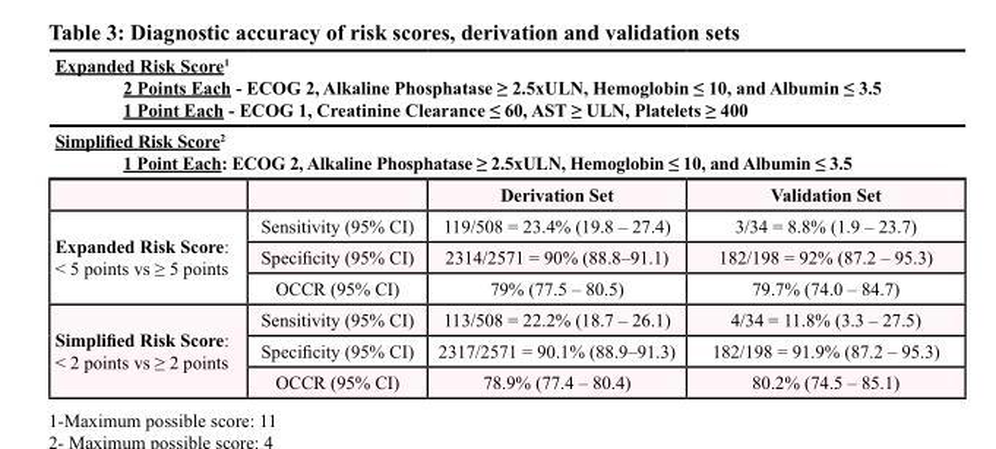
<table><thead><tr><td rowspan="2" colspan="4">Expanded Risk Score<sup>1</sup> 2 Points Each - ECOG 2, Alkaline Phosphatase ≥ 2.5xULN, Hemoglobin ≤ 10, and Albumin ≤ 3.5 1 Point Each - ECOG 1, Creatinine Clearance ≤ 60, AST ≥ ULN, Platelets ≥ 400 Simplified Risk Score<sup>2</sup> 1 Point Each: ECOG 2, Alkaline Phosphatase ≥ 2.5xULN, Hemoglobin ≤ 10, and Albumin ≤ 3.5</td></tr><tr></tr><tr><td></td><td></td><td>Derivation Set</td><td>Validation Set</td></tr></thead><tbody><tr><td rowspan="3">Expanded Risk Score: &lt; 5 points vs ≥ 5 points</td><td>Sensitivity (95% CI)</td><td>119/508 = 23.4% (19.8 – 27.4)</td><td>3/34 = 8.8% (1.9 – 23.7)</td></tr><tr><td>Specificity (95% CI)</td><td>2314/2571 = 90% (88.8–91.1)</td><td>182/198 = 92% (87.2 – 95.3)</td></tr><tr><td>OCCR (95% CI)</td><td>79% (77.5 – 80.5)</td><td>79.7% (74.0 – 84.7)</td></tr><tr><td rowspan="3">Simplified Risk Score: &lt; 2 points vs ≥ 2 points</td><td>Sensitivity (95% CI)</td><td>113/508 = 22.2% (18.7 – 26.1)</td><td>4/34 = 11.8% (3.3 – 27.5)</td></tr><tr><td>Specificity (95% CI)</td><td>2317/2571 = 90.1% (88.9–91.3)</td><td>182/198 = 91.9% (87.2 – 95.3)</td></tr><tr><td>OCCR (95% CI)</td><td>78.9% (77.4 – 80.4)</td><td>80.2% (74.5 – 85.1)</td></tr></tbody></table>